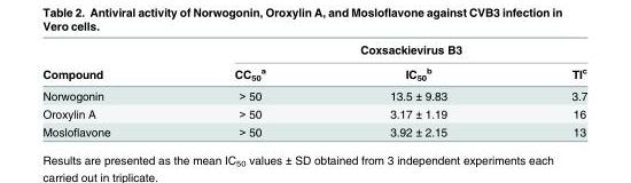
<table><thead><tr><td rowspan="2">Compound</td><td colspan="3">Coxsackievirus B3</td></tr><tr><td>CC<sub>50</sub> <sup>a</sup></td><td>IC<sub>50</sub> <sup>b</sup></td><td>TI<sup>c</sup></td></tr></thead><tbody><tr><td>Norwogonin</td><td>&gt; 50</td><td>13.5 ± 9.83</td><td>3.7</td></tr><tr><td>Oroxylin A</td><td>&gt; 50</td><td>3.17 ± 1.19</td><td>16</td></tr><tr><td>Mosloflavone</td><td>&gt; 50</td><td>3.92 ± 2.15</td><td>13</td></tr></tbody></table>